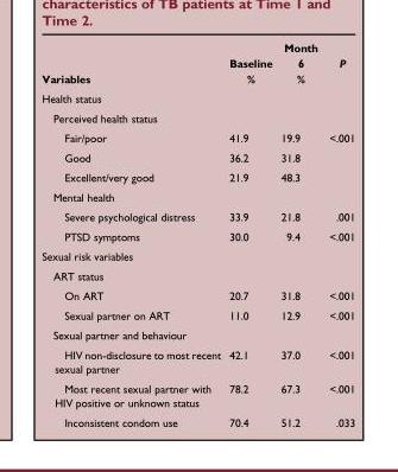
<table><thead><tr><td rowspan="2">Variables</td><td rowspan="2">Baseline %</td><td rowspan="2">Month 6 %</td><td rowspan="2">P</td></tr><tr></tr></thead><tbody><tr><td colspan="4">Health status</td></tr><tr><td colspan="4">Perceived health status</td></tr><tr><td>Fair/poor</td><td>41.9</td><td>19.9</td><td>&lt;.001</td></tr><tr><td>Good</td><td>36.2</td><td>31.8</td><td></td></tr><tr><td>Excellent/very good</td><td>21.9</td><td>48.3</td><td></td></tr><tr><td colspan="4">Mental health</td></tr><tr><td>Severe psychological distress</td><td>33.9</td><td>21.8</td><td>.001</td></tr><tr><td>PTSD symptoms</td><td>30.0</td><td>9.4</td><td>&lt;.001</td></tr><tr><td colspan="4">Sexual risk variables</td></tr><tr><td colspan="4">ART status</td></tr><tr><td>On ART</td><td>20.7</td><td>31.8</td><td>&lt;.001</td></tr><tr><td>Sexual partner on ART</td><td>11.0</td><td>12.9</td><td>&lt;.001</td></tr><tr><td colspan="4">Sexual partner and behaviour</td></tr><tr><td>HIV non-disclosure to most recent sexual partner</td><td>42.1</td><td>37.0</td><td>&lt;.001</td></tr><tr><td>Most recent sexual partner with HIV positive or unknown status</td><td>78.2</td><td>67.3</td><td>&lt;.001</td></tr><tr><td>Inconsistent condom use</td><td>70.4</td><td>51.2</td><td>.033</td></tr></tbody></table>